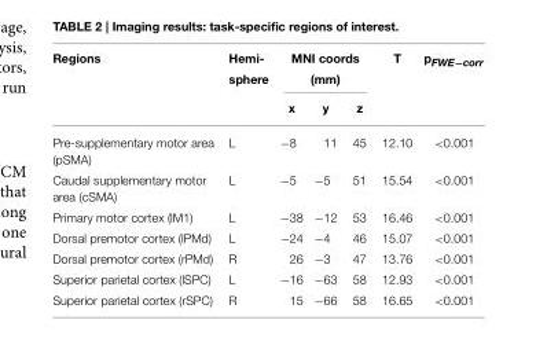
<table><thead><tr><td rowspan="3">Regions</td><td rowspan="3">Hemi- sphere</td><td rowspan="2" colspan="3">MNI coords (mm)</td><td rowspan="3">T</td><td rowspan="3">p<sub>FWE−corr</sub></td></tr><tr></tr><tr><td>x</td><td>y</td><td>z</td></tr></thead><tbody><tr><td>Pre-supplementary motor area (pSMA)</td><td>L</td><td>−8</td><td>11</td><td>45</td><td>12.10</td><td>&lt;0.001</td></tr><tr><td>Caudal supplementary motor area (cSMA)</td><td>L</td><td>−5</td><td>−5</td><td>51</td><td>15.54</td><td>&lt;0.001</td></tr><tr><td>Primary motor cortex (lM1)</td><td>L</td><td>−38</td><td>−12</td><td>53</td><td>16.46</td><td>&lt;0.001</td></tr><tr><td>Dorsal premotor cortex (lPMd)</td><td>L</td><td>−24</td><td>−4</td><td>46</td><td>15.07</td><td>&lt;0.001</td></tr><tr><td>Dorsal premotor cortex (rPMd)</td><td>R</td><td>26</td><td>−3</td><td>47</td><td>13.76</td><td>&lt;0.001</td></tr><tr><td>Superior parietal cortex (lSPC)</td><td>L</td><td>−16</td><td>−63</td><td>58</td><td>12.93</td><td>&lt;0.001</td></tr><tr><td>Superior parietal cortex (rSPC)</td><td>R</td><td>15</td><td>−66</td><td>58</td><td>16.65</td><td>&lt;0.001</td></tr></tbody></table>